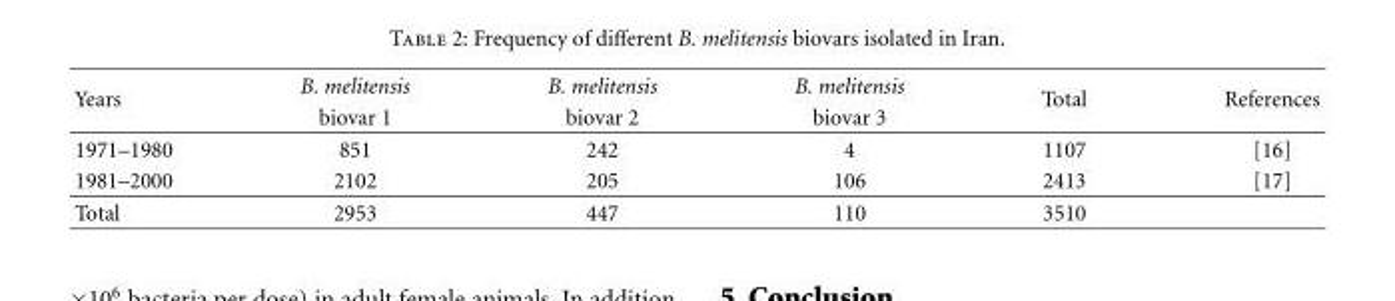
<table><thead><tr><td rowspan="2">Years</td><td rowspan="2">B. melitensis biovar 1</td><td rowspan="2">B. melitensis biovar 2</td><td rowspan="2">B. melitensis biovar 3</td><td rowspan="2">Total</td><td rowspan="2">References</td></tr><tr></tr></thead><tbody><tr><td>1971–1980</td><td>851</td><td>242</td><td>4</td><td>1107</td><td>[16]</td></tr><tr><td>1981–2000</td><td>2102</td><td>205</td><td>106</td><td>2413</td><td>[17]</td></tr><tr><td>Total</td><td>2953</td><td>447</td><td>110</td><td>3510</td><td></td></tr></tbody></table>